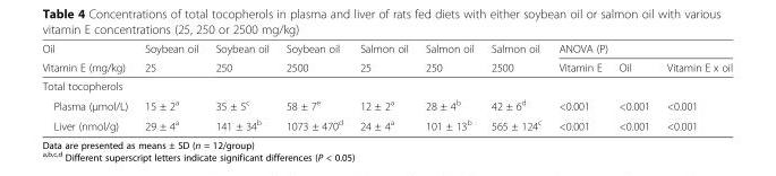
<table><thead><tr><td rowspan="2">Oil Vitamin E (mg/kg)</td><td rowspan="2">Soybean oil 25</td><td rowspan="2">Soybean oil 250</td><td rowspan="2">Soybean oil 2500</td><td rowspan="2">Salmon oil 25</td><td rowspan="2">Salmon oil 250</td><td rowspan="2">Salmon oil 2500</td><td colspan="3">ANOVA (P)</td></tr><tr><td>Vitamin E</td><td>Oil</td><td>Vitamin E x oil</td></tr></thead><tbody><tr><td colspan="10">Total tocopherols</td></tr><tr><td>Plasma (μmol/L)</td><td>15 ± 2<sup>a</sup></td><td>35 ± 5<sup>c</sup></td><td>58 ± 7<sup>e</sup></td><td>12 ± 2<sup>a</sup></td><td>28 ± 4<sup>b</sup></td><td>42 ± 6<sup>d</sup></td><td>&lt;0.001</td><td>&lt;0.001</td><td>&lt;0.001</td></tr><tr><td>Liver (nmol/g)</td><td>29 ± 4<sup>a</sup></td><td>141 ± 34<sup>b</sup></td><td>1073 ± 470<sup>d</sup></td><td>24 ± 4<sup>a</sup></td><td>101 ± 13<sup>b</sup></td><td>565 ± 124<sup>c</sup></td><td>&lt;0.001</td><td>&lt;0.001</td><td>&lt;0.001</td></tr></tbody></table>